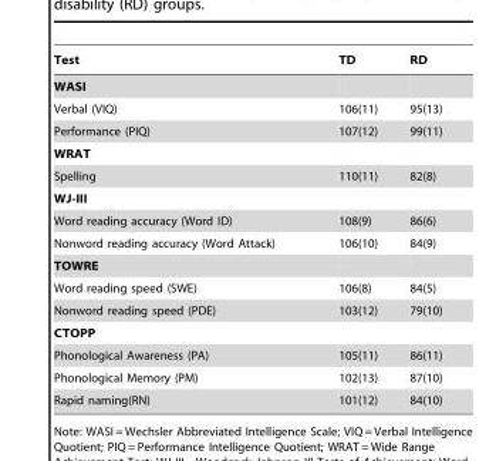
<table><thead><tr><td>Test</td><td>TD</td><td>RD</td></tr></thead><tbody><tr><td colspan="3">WASI</td></tr><tr><td>Verbal (VIQ)</td><td>106(11)</td><td>95(13)</td></tr><tr><td>Performance (PIQ)</td><td>107(12)</td><td>99(11)</td></tr><tr><td colspan="3">WRAT</td></tr><tr><td>Spelling</td><td>110(11)</td><td>82(8)</td></tr><tr><td colspan="3">WJ-III</td></tr><tr><td>Word reading accuracy (Word ID)</td><td>108(9)</td><td>86(6)</td></tr><tr><td>Nonword reading accuracy (Word Attack)</td><td>106(10)</td><td>84(9)</td></tr><tr><td colspan="3">TOWRE</td></tr><tr><td>Word reading speed (SWE)</td><td>106(8)</td><td>84(5)</td></tr><tr><td>Nonword reading speed (PDE)</td><td>103(12)</td><td>79(10)</td></tr><tr><td colspan="3">CTOPP</td></tr><tr><td>Phonological Awareness (PA)</td><td>105(11)</td><td>86(11)</td></tr><tr><td>Phonological Memory (PM)</td><td>102(13)</td><td>87(10)</td></tr><tr><td>Rapid naming(RN)</td><td>101(12)</td><td>84(10)</td></tr></tbody></table>